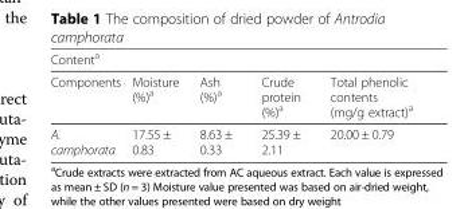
<table><thead><tr><td colspan="5">Content<sup>a</sup></td></tr><tr><td>Components</td><td>Moisture (%)<sup>a</sup></td><td>Ash (%)<sup>a</sup></td><td>Crude protein (%)<sup>a</sup></td><td>Total phenolic contents (mg/g extract)<sup>a</sup></td></tr></thead><tbody><tr><td>A. camphorata</td><td>17.55 ± 0.83</td><td>8.63 ± 0.33</td><td>25.39 ± 2.11</td><td>20.00 ± 0.79</td></tr></tbody></table>